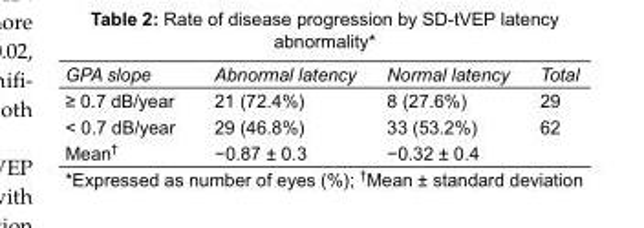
<table><tbody><tr><td>GPA slope</td><td>Abnormal latency</td><td>Normal latency</td><td>Total</td></tr><tr><td>≥ 0.7 dB/year</td><td>21 (72.4%)</td><td>8 (27.6%)</td><td>29</td></tr><tr><td>&lt; 0.7 dB/year</td><td>29 (46.8%)</td><td>33 (53.2%)</td><td>62</td></tr><tr><td>Mean<sup>†</sup></td><td>−0.87 ± 0.3</td><td>−0.32 ± 0.4</td><td></td></tr></tbody></table>